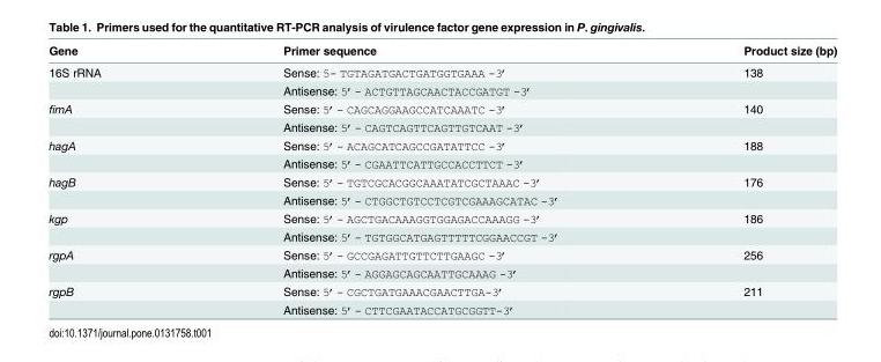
<table><thead><tr><td>Gene</td><td>Primer sequence</td><td>Product size (bp)</td></tr></thead><tbody><tr><td rowspan="2">16S rRNA</td><td>Sense: 5- TGTAGATGACTGATGGTGAAA -3’</td><td>138</td></tr><tr><td>Antisense: 5’- ACTGTTAGCAACTACCGATGT -3’</td><td></td></tr><tr><td rowspan="2">fimA</td><td>Sense: 5’- CAGCAGGAAGCCATCAAATC -3’</td><td>140</td></tr><tr><td>Antisense: 5’- CAGTCAGTTCAGTTGTCAAT -3’</td><td></td></tr><tr><td rowspan="2">hagA</td><td>Sense: 5’- ACAGCATCAGCCGATATTCC -3’</td><td>188</td></tr><tr><td>Antisense: 5’- CGAATTCATTGCCACCTTCT -3’</td><td></td></tr><tr><td rowspan="2">hagB</td><td>Sense: 5’- TGTCGCACGGCAAATATCGCTAAAC -3’</td><td>176</td></tr><tr><td>Antisense: 5’- CTGGCTGTCCTCGTCGAAAGCATAC -3’</td><td></td></tr><tr><td rowspan="2">kgp</td><td>Sense: 5’- AGCTGACAAAGGTGGAGACCAAAGG -3’</td><td>186</td></tr><tr><td>Antisense: 5’- TGTGGCATGAGTTTTTCGGAACCGT -3’</td><td></td></tr><tr><td rowspan="2">rgpA</td><td>Sense: 5’- GCCGAGATTGTTCTTGAAGC -3’</td><td>256</td></tr><tr><td>Antisense: 5’- AGGAGCAGCAATTGCAAAG -3’</td><td></td></tr><tr><td rowspan="2">rgpB</td><td>Sense: 5’- CGCTGATGAAACGAACTTGA-3’</td><td>211</td></tr><tr><td>Antisense: 5’- CTTCGAATACCATGCGGTT-3’</td><td></td></tr></tbody></table>